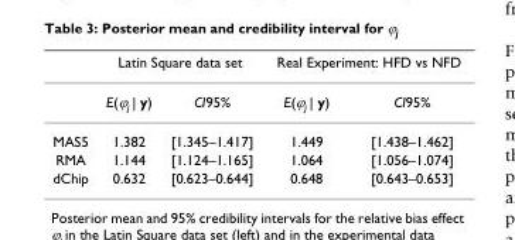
<table><thead><tr><td rowspan="2"></td><td colspan="2">Latin Square data set</td><td colspan="2">Real Experiment: HFD vs NFD</td></tr><tr><td>E(ϕ<sub>j</sub> | y)</td><td>CI95%</td><td>E(ϕ<sub>j</sub> | y)</td><td>CI95%</td></tr></thead><tbody><tr><td>MAS5</td><td>1.382</td><td>[1.345–1.417]</td><td>1.449</td><td>[1.438–1.462]</td></tr><tr><td>RMA</td><td>1.144</td><td>[1.124–1.165]</td><td>1.064</td><td>[1.056–1.074]</td></tr><tr><td>dChip</td><td>0.632</td><td>[0.623–0.644]</td><td>0.648</td><td>[0.643–0.653]</td></tr></tbody></table>